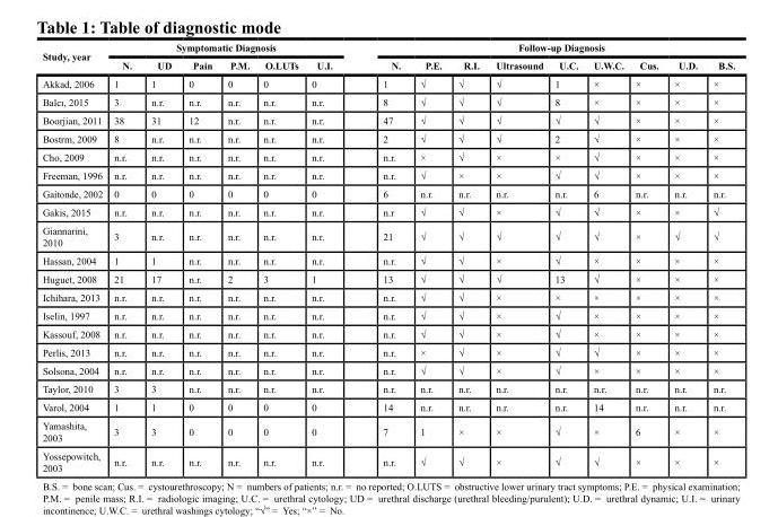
<table><thead><tr><td rowspan="2">Study, year</td><td colspan="6">Symptomatic Diagnosis</td><td colspan="9">Follow-up Diagnosis</td></tr><tr><td>N.</td><td>UD</td><td>Pain</td><td>P.M.</td><td>O.LUTs</td><td>U.I.</td><td>N.</td><td>P.E.</td><td>R.I.</td><td>Ultrasound</td><td>U.C.</td><td>U.W.C.</td><td>Cus.</td><td>U.D.</td><td>B.S.</td></tr></thead><tbody><tr><td>Akkad, 2006</td><td>1</td><td>1</td><td>0</td><td>0</td><td>0</td><td>0</td><td>1</td><td>√</td><td>√</td><td>√</td><td>1</td><td>×</td><td>×</td><td>×</td><td>×</td></tr><tr><td>Balcı, 2015</td><td>3</td><td>n.r.</td><td>n.r.</td><td>n.r.</td><td>n.r.</td><td>n.r.</td><td>8</td><td>√</td><td>√</td><td>√</td><td>8</td><td>×</td><td>×</td><td>×</td><td>×</td></tr><tr><td>Boorjian, 2011</td><td>38</td><td>31</td><td>12</td><td>n.r.</td><td>n.r.</td><td>n.r.</td><td>47</td><td>√</td><td>√</td><td>√</td><td>√</td><td>√</td><td>×</td><td>×</td><td>×</td></tr><tr><td>Bostrm, 2009</td><td>8</td><td>n.r.</td><td>n.r.</td><td>n.r.</td><td>n.r.</td><td>n.r.</td><td>2</td><td>√</td><td>√</td><td>√</td><td>2</td><td>√</td><td>×</td><td>×</td><td>×</td></tr><tr><td>Cho, 2009</td><td>n.r.</td><td>n.r.</td><td>n.r.</td><td>n.r.</td><td>n.r.</td><td>n.r.</td><td>n.r.</td><td>×</td><td>√</td><td>×</td><td>×</td><td>√</td><td>×</td><td>×</td><td>×</td></tr><tr><td>Freeman, 1996</td><td>n.r.</td><td>n.r.</td><td>n.r.</td><td>n.r.</td><td>n.r.</td><td>n.r.</td><td>n.r.</td><td>√</td><td>×</td><td>×</td><td>√</td><td>√</td><td>×</td><td>×</td><td>×</td></tr><tr><td>Gaitonde, 2002</td><td>0</td><td>0</td><td>0</td><td>0</td><td>0</td><td>0</td><td>6</td><td>n.r.</td><td>n.r.</td><td>n.r.</td><td>n.r.</td><td>6</td><td>n.r.</td><td>n.r.</td><td>n.r.</td></tr><tr><td>Gakis, 2015</td><td>n.r.</td><td>n.r.</td><td>n.r.</td><td>n.r.</td><td>n.r.</td><td>n.r.</td><td>n.r</td><td>√</td><td>√</td><td>×</td><td>√</td><td>√</td><td>×</td><td>×</td><td>√</td></tr><tr><td>Giannarini, 2010</td><td>3</td><td>n.r.</td><td>n.r.</td><td>n.r.</td><td>n.r.</td><td>n.r.</td><td>21</td><td>√</td><td>√</td><td>√</td><td>√</td><td>√</td><td>×</td><td>√</td><td>√</td></tr><tr><td>Hassan, 2004</td><td>1</td><td>1</td><td>n.r.</td><td>n.r.</td><td>n.r.</td><td>n.r.</td><td>n.r.</td><td>√</td><td>√</td><td>×</td><td>√</td><td>×</td><td>×</td><td>×</td><td>×</td></tr><tr><td>Huguet, 2008</td><td>21</td><td>17</td><td>n.r.</td><td>2</td><td>3</td><td>1</td><td>13</td><td>√</td><td>√</td><td>√</td><td>13</td><td>√</td><td>×</td><td>×</td><td>×</td></tr><tr><td>Ichihara, 2013</td><td>n.r.</td><td>n.r.</td><td>n.r.</td><td>n.r.</td><td>n.r.</td><td>n.r.</td><td>n.r.</td><td>√</td><td>√</td><td>×</td><td>×</td><td>×</td><td>×</td><td>×</td><td>×</td></tr><tr><td>Iselin, 1997</td><td>n.r.</td><td>n.r.</td><td>n.r.</td><td>n.r.</td><td>n.r.</td><td>n.r.</td><td>n.r.</td><td>√</td><td>√</td><td>×</td><td>√</td><td>×</td><td>×</td><td>×</td><td>×</td></tr><tr><td>Kassouf, 2008</td><td>n.r.</td><td>n.r.</td><td>n.r.</td><td>n.r.</td><td>n.r.</td><td>n.r.</td><td>n.r.</td><td>√</td><td>√</td><td>×</td><td>√</td><td>×</td><td>×</td><td>×</td><td>×</td></tr><tr><td>Perlis, 2013</td><td>n.r.</td><td>n.r.</td><td>n.r.</td><td>n.r.</td><td>n.r.</td><td>n.r.</td><td>n.r.</td><td>×</td><td>√</td><td>×</td><td>√</td><td>√</td><td>×</td><td>×</td><td>×</td></tr><tr><td>Solsona, 2004</td><td>n.r.</td><td>n.r.</td><td>n.r.</td><td>n.r.</td><td>n.r.</td><td>n.r.</td><td>n.r.</td><td>√</td><td>√</td><td>×</td><td>√</td><td>×</td><td>×</td><td>×</td><td>×</td></tr><tr><td>Taylor, 2010</td><td>3</td><td>3</td><td>n.r.</td><td>n.r.</td><td>n.r.</td><td>n.r.</td><td>n.r.</td><td>n.r.</td><td>n.r.</td><td>n.r.</td><td>n.r.</td><td>n.r.</td><td>n.r.</td><td>n.r.</td><td>n.r.</td></tr><tr><td>Varol, 2004</td><td>1</td><td>1</td><td>0</td><td>0</td><td>0</td><td>0</td><td>14</td><td>n.r.</td><td>n.r.</td><td>n.r.</td><td>n.r.</td><td>14</td><td>n.r.</td><td>n.r.</td><td>n.r.</td></tr><tr><td>Yamashita, 2003</td><td>3</td><td>3</td><td>0</td><td>0</td><td>0</td><td>0</td><td>7</td><td>1</td><td>×</td><td>×</td><td>√</td><td>×</td><td>6</td><td>×</td><td>×</td></tr><tr><td>Yossepowitch, 2003</td><td>n.r.</td><td>n.r.</td><td>n.r.</td><td>n.r.</td><td>n.r.</td><td>n.r.</td><td>n.r.</td><td>√</td><td>√</td><td>×</td><td>√</td><td>√</td><td>×</td><td>×</td><td>×</td></tr></tbody></table>